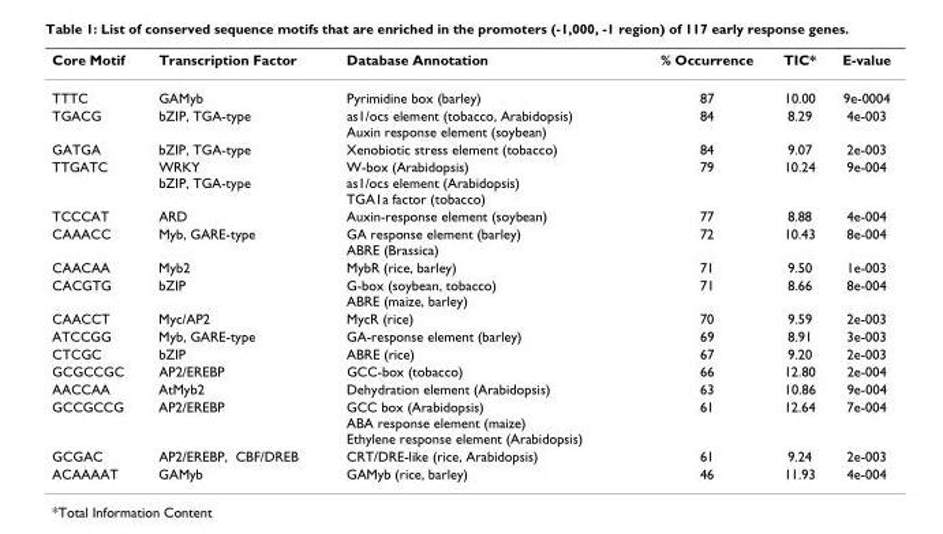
<table><thead><tr><td>Core Motif</td><td>Transcription Factor</td><td>Database Annotation</td><td>% Occurrence</td><td>TIC*</td><td>E-value</td></tr></thead><tbody><tr><td>TTTC</td><td>GAMyb</td><td>Pyrimidine box (barley)</td><td>87</td><td>10.00</td><td>9e-0004</td></tr><tr><td>TGACG</td><td>bZIP, TGA-type</td><td>as1/ocs element (tobacco, Arabidopsis) Auxin response element (soybean)</td><td>84</td><td>8.29</td><td>4e-003</td></tr><tr><td>GATGA</td><td>bZIP, TGA-type</td><td>Xenobiotic stress element (tobacco)</td><td>84</td><td>9.07</td><td>2e-003</td></tr><tr><td>TTGATC</td><td>WRKY bZIP, TGA-type</td><td>W-box (Arabidopsis) as1/ocs element (Arabidopsis) TGA1a factor (tobacco)</td><td>79</td><td>10.24</td><td>9e-004</td></tr><tr><td>TCCCAT</td><td>ARD</td><td>Auxin-response element (soybean)</td><td>77</td><td>8.88</td><td>4e-004</td></tr><tr><td>CAAACC</td><td>Myb, GARE-type</td><td>GA response element (barley) ABRE (Brassica)</td><td>72</td><td>10.43</td><td>8e-004</td></tr><tr><td>CAACAA</td><td>Myb2</td><td>MybR (rice, barley)</td><td>71</td><td>9.50</td><td>1e-003</td></tr><tr><td>CACGTG</td><td>bZIP</td><td>G-box (soybean, tobacco) ABRE (maize, barley)</td><td>71</td><td>8.66</td><td>8e-004</td></tr><tr><td>CAACCT</td><td>Myc/AP2</td><td>MycR (rice)</td><td>70</td><td>9.59</td><td>2e-003</td></tr><tr><td>ATCCGG</td><td>Myb, GARE-type</td><td>GA-response element (barley)</td><td>69</td><td>8.91</td><td>3e-003</td></tr><tr><td>CTCGC</td><td>bZIP</td><td>ABRE (rice)</td><td>67</td><td>9.20</td><td>2e-003</td></tr><tr><td>GCGCCGC</td><td>AP2/EREBP</td><td>GCC-box (tobacco)</td><td>66</td><td>12.80</td><td>2e-004</td></tr><tr><td>AACCAA</td><td>AtMyb2</td><td>Dehydration element (Arabidopsis)</td><td>63</td><td>10.86</td><td>9e-004</td></tr><tr><td>GCCGCCG</td><td>AP2/EREBP</td><td>GCC box (Arabidopsis) ABA response element (maize) Ethylene response element (Arabidopsis)</td><td>61</td><td>12.64</td><td>7e-004</td></tr><tr><td>GCGAC</td><td>AP2/EREBP, CBF/DREB</td><td>CRT/DRE-like (rice, Arabidopsis)</td><td>61</td><td>9.24</td><td>2e-003</td></tr><tr><td>ACAAAAT</td><td>GAMyb</td><td>GAMyb (rice, barley)</td><td>46</td><td>11.93</td><td>4e-004</td></tr></tbody></table>